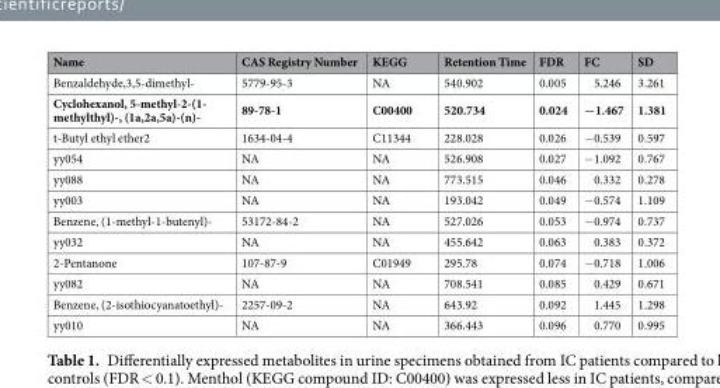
<table><thead><tr><td>Name</td><td>CAS Registry Number</td><td>KEGG</td><td>Retention Time</td><td>FDR</td><td>FC</td><td>SD</td></tr></thead><tbody><tr><td>Benzaldehyde,3,5-dimethyl-</td><td>5779-95-3</td><td>NA</td><td>540.902</td><td>0.005</td><td>5.246</td><td>3.261</td></tr><tr><td>Cyclohexanol, 5-methyl-2-(1- methylthyl)-, (1a,2a,5a)-(n)-</td><td>89-78-1</td><td>C00400</td><td>520.734</td><td>0.024</td><td>−1.467</td><td>1.381</td></tr><tr><td>t-Butyl ethyl ether2</td><td>1634-04-4</td><td>C11344</td><td>228.028</td><td>0.026</td><td>−0.539</td><td>0.597</td></tr><tr><td>yy054</td><td>NA</td><td>NA</td><td>526.908</td><td>0.027</td><td>−1.092</td><td>0.767</td></tr><tr><td>yy088</td><td>NA</td><td>NA</td><td>773.515</td><td>0.046</td><td>0.332</td><td>0.278</td></tr><tr><td>yy003</td><td>NA</td><td>NA</td><td>193.042</td><td>0.049</td><td>−0.574</td><td>1.109</td></tr><tr><td>Benzene, (1-methyl-1-butenyl)-</td><td>53172-84-2</td><td>NA</td><td>527.026</td><td>0.053</td><td>−0.974</td><td>0.737</td></tr><tr><td>yy032</td><td>NA</td><td>NA</td><td>455.642</td><td>0.063</td><td>0.383</td><td>0.372</td></tr><tr><td>2-Pentanone</td><td>107-87-9</td><td>C01949</td><td>295.78</td><td>0.074</td><td>−0.718</td><td>1.006</td></tr><tr><td>yy082</td><td>NA</td><td>NA</td><td>708.541</td><td>0.085</td><td>0.429</td><td>0.671</td></tr><tr><td>Benzene, (2-isothiocyanatoethyl)-</td><td>2257-09-2</td><td>NA</td><td>643.92</td><td>0.092</td><td>1.445</td><td>1.298</td></tr><tr><td>yy010</td><td>NA</td><td>NA</td><td>366.443</td><td>0.096</td><td>0.770</td><td>0.995</td></tr></tbody></table>